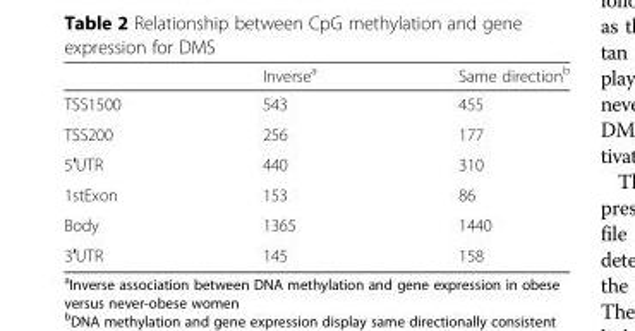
<table><thead><tr><td></td><td>Inverse<sup>a</sup></td><td>Same direction<sup>b</sup></td></tr></thead><tbody><tr><td>TSS1500</td><td>543</td><td>455</td></tr><tr><td>TSS200</td><td>256</td><td>177</td></tr><tr><td>5′UTR</td><td>440</td><td>310</td></tr><tr><td>1stExon</td><td>153</td><td>86</td></tr><tr><td>Body</td><td>1365</td><td>1440</td></tr><tr><td>3′UTR</td><td>145</td><td>158</td></tr></tbody></table>